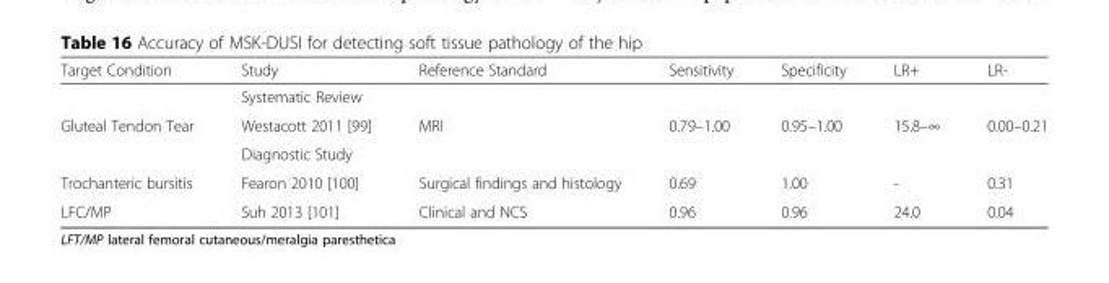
<table><thead><tr><td>Target Condition</td><td>Study</td><td>Reference Standard</td><td>Sensitivity</td><td>Specificity</td><td>LR+</td><td>LR-</td></tr></thead><tbody><tr><td></td><td>Systematic Review</td><td></td><td></td><td></td><td></td><td></td></tr><tr><td rowspan="2">Gluteal Tendon Tear</td><td>Westacott 2011 [99]</td><td>MRI</td><td>0.79–1.00</td><td>0.95–1.00</td><td>15.8–∞</td><td>0.00–0.21</td></tr><tr><td>Diagnostic Study</td><td></td><td></td><td></td><td></td><td></td></tr><tr><td>Trochanteric bursitis</td><td>Fearon 2010 [100]</td><td>Surgical findings and histology</td><td>0.69</td><td>1.00</td><td>-</td><td>0.31</td></tr><tr><td>LFC/MP</td><td>Suh 2013 [101]</td><td>Clinical and NCS</td><td>0.96</td><td>0.96</td><td>24.0</td><td>0.04</td></tr></tbody></table>